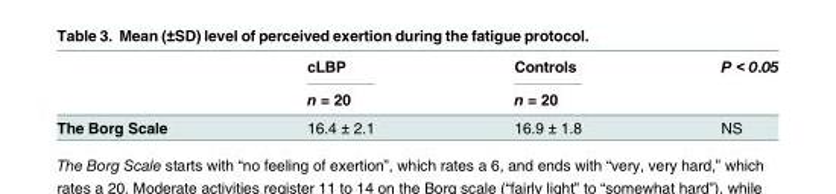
<table><thead><tr><td rowspan="2"></td><td rowspan="2">cLBP n = 20</td><td rowspan="2">Controls n = 20</td><td rowspan="2">P &lt; 0.05</td></tr><tr></tr></thead><tbody><tr><td>The Borg Scale</td><td>16.4 ± 2.1</td><td>16.9 ± 1.8</td><td>NS</td></tr></tbody></table>